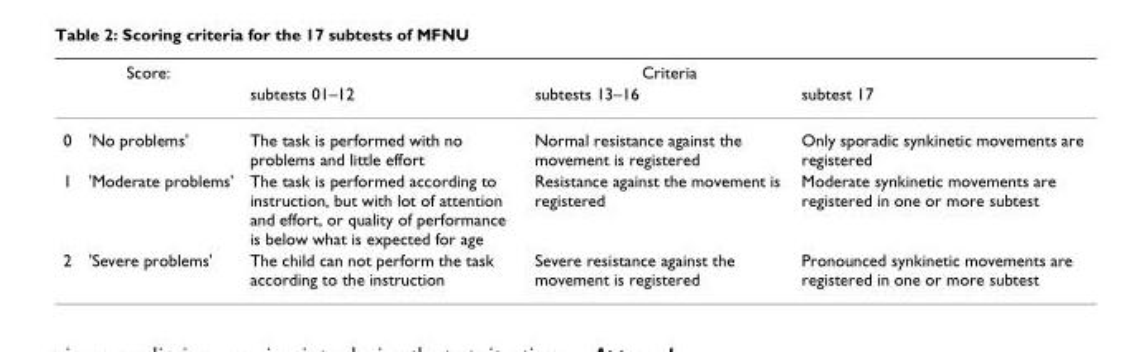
<table><thead><tr><td colspan="2">Score:</td><td colspan="3">Criteria</td></tr><tr><td></td><td></td><td>subtests 01–12</td><td>subtests 13–16</td><td>subtest 17</td></tr></thead><tbody><tr><td>0</td><td>&#x27;No problems&#x27;</td><td>The task is performed with no problems and little effort</td><td>Normal resistance against the movement is registered</td><td>Only sporadic synkinetic movements are registered</td></tr><tr><td>1</td><td>&#x27;Moderate problems&#x27;</td><td>The task is performed according to instruction, but with lot of attention and effort, or quality of performance is below what is expected for age</td><td>Resistance against the movement is registered</td><td>Moderate synkinetic movements are registered in one or more subtest</td></tr><tr><td>2</td><td>&#x27;Severe problems&#x27;</td><td>The child can not perform the task according to the instruction</td><td>Severe resistance against the movement is registered</td><td>Pronounced synkinetic movements are registered in one or more subtest</td></tr></tbody></table>